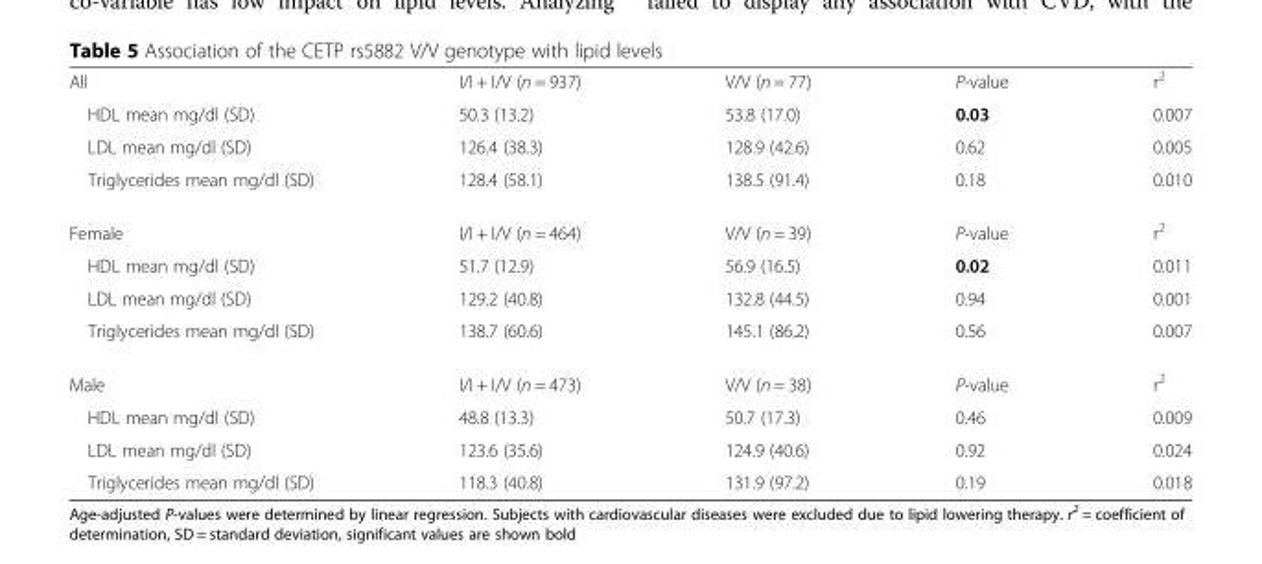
<table><tbody><tr><td>All</td><td>I/I + I/V (n = 937)</td><td>V/V (n = 77)</td><td>P-value</td><td>r<sup>2</sup></td></tr><tr><td>HDL mean mg/dl (SD)</td><td>50.3 (13.2)</td><td>53.8 (17.0)</td><td>0.03</td><td>0.007</td></tr><tr><td>LDL mean mg/dl (SD)</td><td>126.4 (38.3)</td><td>128.9 (42.6)</td><td>0.62</td><td>0.005</td></tr><tr><td>Triglycerides mean mg/dl (SD)</td><td>128.4 (58.1)</td><td>138.5 (91.4)</td><td>0.18</td><td>0.010</td></tr><tr><td>Female</td><td>I/I + I/V (n = 464)</td><td>V/V (n = 39)</td><td>P-value</td><td>r<sup>2</sup></td></tr><tr><td>HDL mean mg/dl (SD)</td><td>51.7 (12.9)</td><td>56.9 (16.5)</td><td>0.02</td><td>0.011</td></tr><tr><td>LDL mean mg/dl (SD)</td><td>129.2 (40.8)</td><td>132.8 (44.5)</td><td>0.94</td><td>0.001</td></tr><tr><td>Triglycerides mean mg/dl (SD)</td><td>138.7 (60.6)</td><td>145.1 (86.2)</td><td>0.56</td><td>0.007</td></tr><tr><td>Male</td><td>I/I + I/V (n = 473)</td><td>V/V (n = 38)</td><td>P-value</td><td>r<sup>2</sup></td></tr><tr><td>HDL mean mg/dl (SD)</td><td>48.8 (13.3)</td><td>50.7 (17.3)</td><td>0.46</td><td>0.009</td></tr><tr><td>LDL mean mg/dl (SD)</td><td>123.6 (35.6)</td><td>124.9 (40.6)</td><td>0.92</td><td>0.024</td></tr><tr><td>Triglycerides mean mg/dl (SD)</td><td>118.3 (40.8)</td><td>131.9 (97.2)</td><td>0.19</td><td>0.018</td></tr></tbody></table>